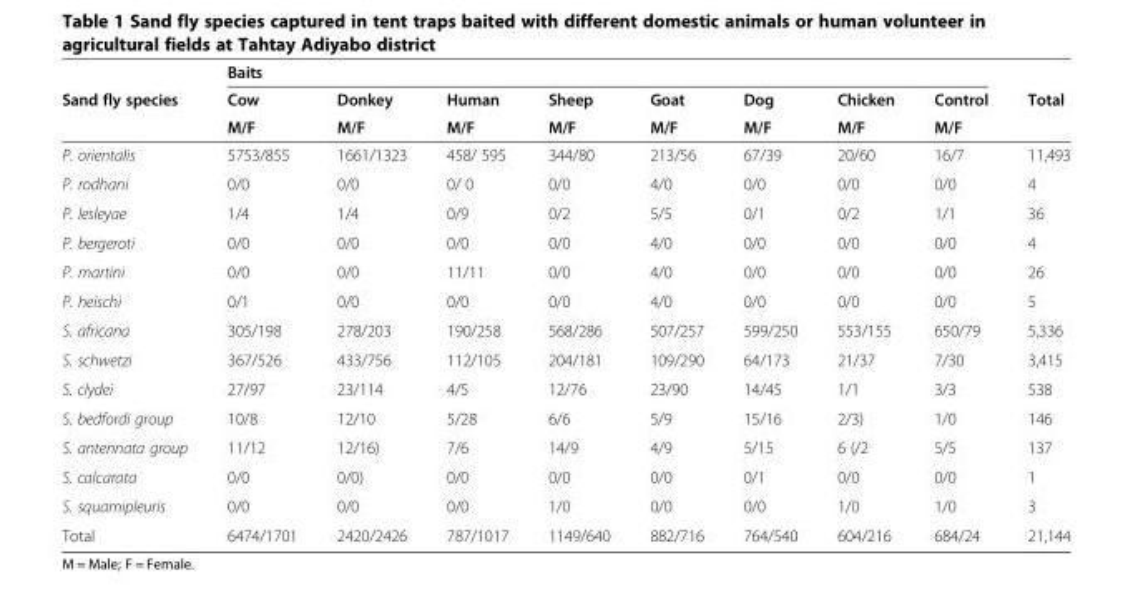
<table><thead><tr><td rowspan="3">Sand fly species</td><td colspan="8">Baits</td><td rowspan="3">Total</td></tr><tr><td rowspan="2">Cow M/F</td><td rowspan="2">Donkey M/F</td><td rowspan="2">Human M/F</td><td rowspan="2">Sheep M/F</td><td rowspan="2">Goat M/F</td><td rowspan="2">Dog M/F</td><td rowspan="2">Chicken M/F</td><td rowspan="2">Control M/F</td></tr><tr></tr></thead><tbody><tr><td>P. orientalis</td><td>5753/855</td><td>1661/1323</td><td>458/ 595</td><td>344/80</td><td>213/56</td><td>67/39</td><td>20/60</td><td>16/7</td><td>11,493</td></tr><tr><td>P. rodhani</td><td>0/0</td><td>0/0</td><td>0/ 0</td><td>0/0</td><td>4/0</td><td>0/0</td><td>0/0</td><td>0/0</td><td>4</td></tr><tr><td>P. lesleyae</td><td>1/4</td><td>1/4</td><td>0/9</td><td>0/2</td><td>5/5</td><td>0/1</td><td>0/2</td><td>1/1</td><td>36</td></tr><tr><td>P. bergeroti</td><td>0/0</td><td>0/0</td><td>0/0</td><td>0/0</td><td>4/0</td><td>0/0</td><td>0/0</td><td>0/0</td><td>4</td></tr><tr><td>P. martini</td><td>0/0</td><td>0/0</td><td>11/11</td><td>0/0</td><td>4/0</td><td>0/0</td><td>0/0</td><td>0/0</td><td>26</td></tr><tr><td>P. heischi</td><td>0/1</td><td>0/0</td><td>0/0</td><td>0/0</td><td>4/0</td><td>0/0</td><td>0/0</td><td>0/0</td><td>5</td></tr><tr><td>S. africana</td><td>305/198</td><td>278/203</td><td>190/258</td><td>568/286</td><td>507/257</td><td>599/250</td><td>553/155</td><td>650/79</td><td>5,336</td></tr><tr><td>S. schwetzi</td><td>367/526</td><td>433/756</td><td>112/105</td><td>204/181</td><td>109/290</td><td>64/173</td><td>21/37</td><td>7/30</td><td>3,415</td></tr><tr><td>S. clydei</td><td>27/97</td><td>23/114</td><td>4/5</td><td>12/76</td><td>23/90</td><td>14/45</td><td>1/1</td><td>3/3</td><td>538</td></tr><tr><td>S. bedfordi group</td><td>10/8</td><td>12/10</td><td>5/28</td><td>6/6</td><td>5/9</td><td>15/16</td><td>2/3)</td><td>1/0</td><td>146</td></tr><tr><td>S. antennata group</td><td>11/12</td><td>12/16)</td><td>7/6</td><td>14/9</td><td>4/9</td><td>5/15</td><td>6 (/2</td><td>5/5</td><td>137</td></tr><tr><td>S. calcarata</td><td>0/0</td><td>0/0)</td><td>0/0</td><td>0/0</td><td>0/0</td><td>0/1</td><td>0/0</td><td>0/0</td><td>1</td></tr><tr><td>S. squamipleuris</td><td>0/0</td><td>0/0</td><td>0/0</td><td>1/0</td><td>0/0</td><td>0/0</td><td>1/0</td><td>1/0</td><td>3</td></tr><tr><td>Total</td><td>6474/1701</td><td>2420/2426</td><td>787/1017</td><td>1149/640</td><td>882/716</td><td>764/540</td><td>604/216</td><td>684/24</td><td>21,144</td></tr></tbody></table>